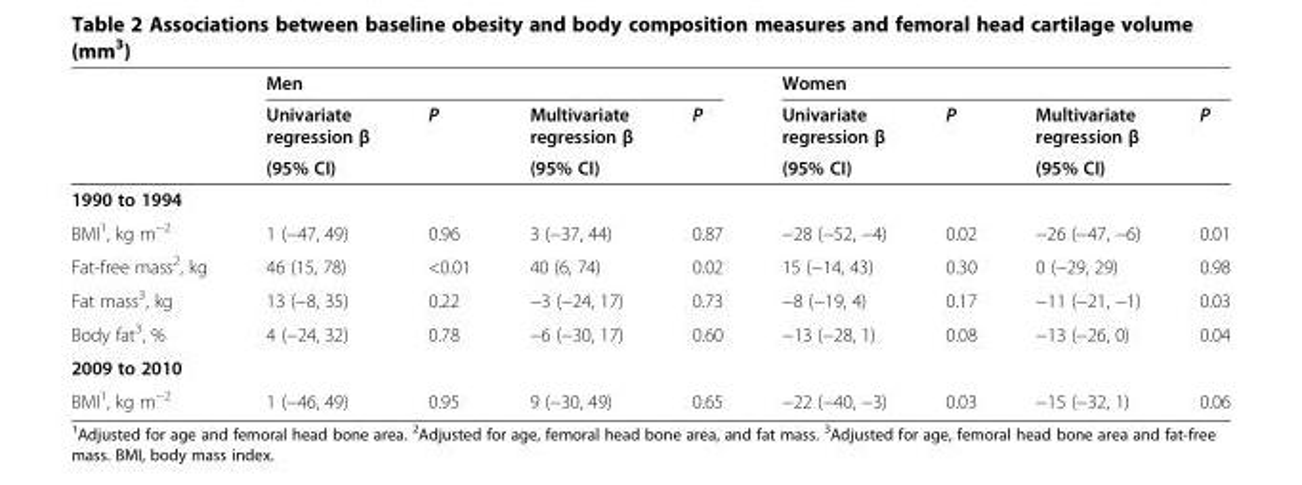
<table><thead><tr><td rowspan="3"></td><td colspan="4">Men</td><td colspan="4">Women</td></tr><tr><td rowspan="2">Univariate regression β (95% CI)</td><td rowspan="2">P</td><td rowspan="2">Multivariate regression β (95% CI)</td><td rowspan="2">P</td><td rowspan="2">Univariate regression β (95% CI)</td><td rowspan="2">P</td><td rowspan="2">Multivariate regression β (95% CI)</td><td rowspan="2">P</td></tr><tr></tr></thead><tbody><tr><td colspan="9">1990 to 1994</td></tr><tr><td>BMI<sup>1</sup>, kg m<sup>−2</sup></td><td>1 (−47, 49)</td><td>0.96</td><td>3 (−37, 44)</td><td>0.87</td><td>−28 (−52, −4)</td><td>0.02</td><td>−26 (−47, −6)</td><td>0.01</td></tr><tr><td>Fat-free mass<sup>2</sup>, kg</td><td>46 (15, 78)</td><td>&lt;0.01</td><td>40 (6, 74)</td><td>0.02</td><td>15 (−14, 43)</td><td>0.30</td><td>0 (−29, 29)</td><td>0.98</td></tr><tr><td>Fat mass<sup>3</sup>, kg</td><td>13 (−8, 35)</td><td>0.22</td><td>−3 (−24, 17)</td><td>0.73</td><td>−8 (−19, 4)</td><td>0.17</td><td>−11 (−21, −1)</td><td>0.03</td></tr><tr><td>Body fat<sup>3</sup>, %</td><td>4 (−24, 32)</td><td>0.78</td><td>−6 (−30, 17)</td><td>0.60</td><td>−13 (−28, 1)</td><td>0.08</td><td>−13 (−26, 0)</td><td>0.04</td></tr><tr><td colspan="9">2009 to 2010</td></tr><tr><td>BMI<sup>1</sup>, kg m<sup>−2</sup></td><td>1 (−46, 49)</td><td>0.95</td><td>9 (−30, 49)</td><td>0.65</td><td>−22 (−40, −3)</td><td>0.03</td><td>−15 (−32, 1)</td><td>0.06</td></tr></tbody></table>